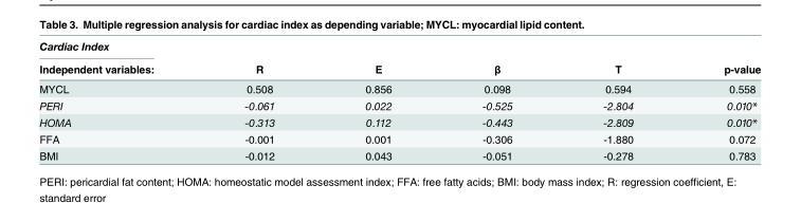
<table><thead><tr><td rowspan="2">Cardiac Index Independent variables:</td><td rowspan="2">R</td><td rowspan="2">E</td><td rowspan="2">β</td><td rowspan="2">T</td><td rowspan="2">p-value</td></tr><tr></tr></thead><tbody><tr><td>MYCL</td><td>0.508</td><td>0.856</td><td>0.098</td><td>0.594</td><td>0.558</td></tr><tr><td>PERI</td><td>-0.061</td><td>0.022</td><td>-0.525</td><td>-2.804</td><td>0.010*</td></tr><tr><td>HOMA</td><td>-0.313</td><td>0.112</td><td>-0.443</td><td>-2.809</td><td>0.010*</td></tr><tr><td>FFA</td><td>-0.001</td><td>0.001</td><td>-0.306</td><td>-1.880</td><td>0.072</td></tr><tr><td>BMI</td><td>-0.012</td><td>0.043</td><td>-0.051</td><td>-0.278</td><td>0.783</td></tr></tbody></table>